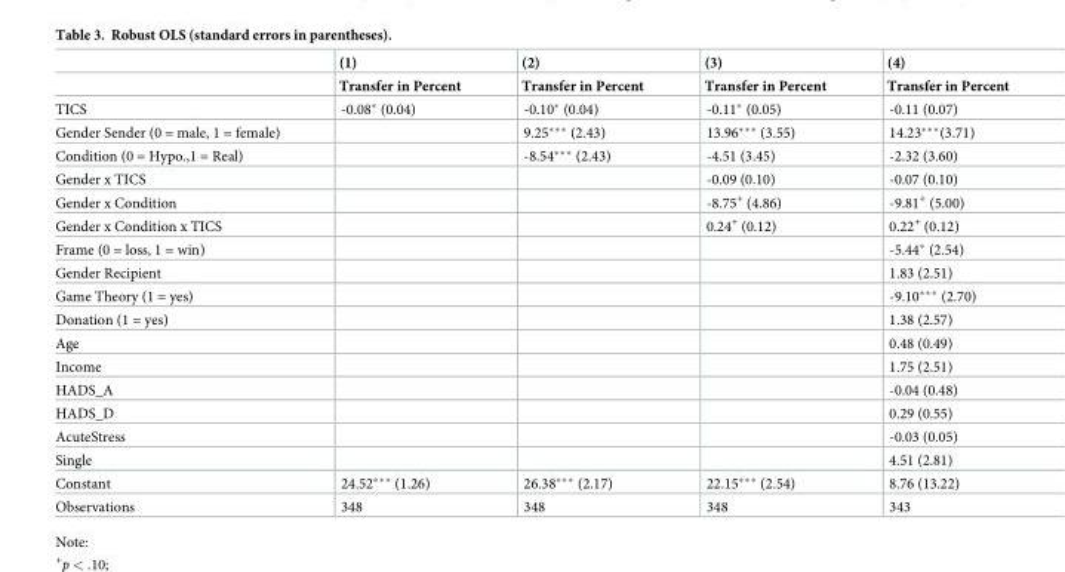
<table><thead><tr><td rowspan="2"></td><td rowspan="2">(1) Transfer in Percent</td><td rowspan="2">(2) Transfer in Percent</td><td rowspan="2">(3) Transfer in Percent</td><td rowspan="2">(4) Transfer in Percent</td></tr><tr></tr></thead><tbody><tr><td>TICS</td><td>-0.08* (0.04)</td><td>-0.10* (0.04)</td><td>-0.11* (0.05)</td><td>-0.11 (0.07)</td></tr><tr><td>Gender Sender (0 = male, 1 = female)</td><td></td><td>9.25*** (2.43)</td><td>13.96*** (3.55)</td><td>14.23***(3.71)</td></tr><tr><td>Condition (0 = Hypo.,1 = Real)</td><td></td><td>-8.54*** (2.43)</td><td>-4.51 (3.45)</td><td>-2.32 (3.60)</td></tr><tr><td>Gender x TICS</td><td></td><td></td><td>-0.09 (0.10)</td><td>-0.07 (0.10)</td></tr><tr><td>Gender x Condition</td><td></td><td></td><td>-8.75<sup>+</sup> (4.86)</td><td>-9.81<sup>+</sup> (5.00)</td></tr><tr><td>Gender x Condition x TICS</td><td></td><td></td><td>0.24<sup>+</sup> (0.12)</td><td>0.22<sup>+</sup> (0.12)</td></tr><tr><td>Frame (0 = loss, 1 = win)</td><td></td><td></td><td></td><td>-5.44* (2.54)</td></tr><tr><td>Gender Recipient</td><td></td><td></td><td></td><td>1.83 (2.51)</td></tr><tr><td>Game Theory (1 = yes)</td><td></td><td></td><td></td><td>-9.10*** (2.70)</td></tr><tr><td>Donation (1 = yes)</td><td></td><td></td><td></td><td>1.38 (2.57)</td></tr><tr><td>Age</td><td></td><td></td><td></td><td>0.48 (0.49)</td></tr><tr><td>Income</td><td></td><td></td><td></td><td>1.75 (2.51)</td></tr><tr><td>HADS_A</td><td></td><td></td><td></td><td>-0.04 (0.48)</td></tr><tr><td>HADS_D</td><td></td><td></td><td></td><td>0.29 (0.55)</td></tr><tr><td>AcuteStress</td><td></td><td></td><td></td><td>-0.03 (0.05)</td></tr><tr><td>Single</td><td></td><td></td><td></td><td>4.51 (2.81)</td></tr><tr><td>Constant</td><td>24.52*** (1.26)</td><td>26.38*** (2.17)</td><td>22.15*** (2.54)</td><td>8.76 (13.22)</td></tr><tr><td>Observations</td><td>348</td><td>348</td><td>348</td><td>343</td></tr></tbody></table>